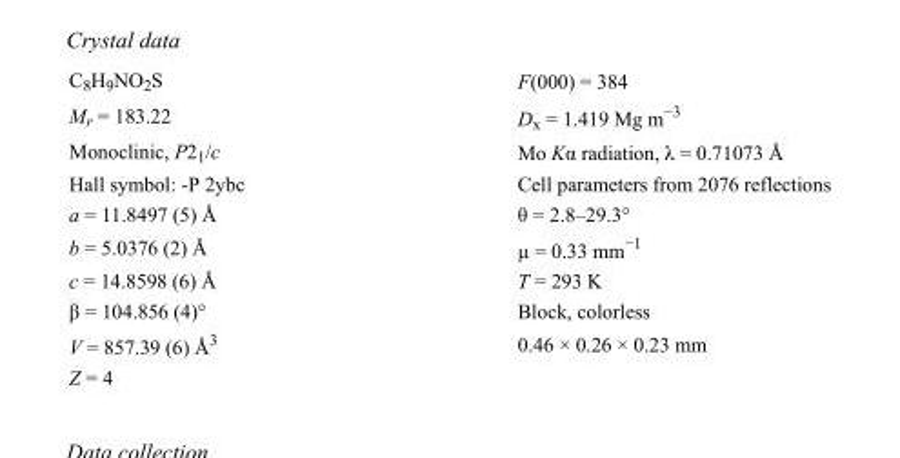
<table><tbody><tr><td>C<sub>8</sub>H<sub>9</sub>NO<sub>2</sub>S</td><td>F(000) = 384</td></tr><tr><td>M<sub>r</sub> = 183.22</td><td>D<sub>x</sub> = 1.419 Mg m<sup>−3</sup></td></tr><tr><td>Monoclinic, P2<sub>1</sub>/c</td><td>Mo Kα radiation, λ = 0.71073 Å</td></tr><tr><td>Hall symbol: -P 2ybc</td><td>Cell parameters from 2076 reflections</td></tr><tr><td>a = 11.8497 (5) Å</td><td>θ = 2.8–29.3°</td></tr><tr><td>b = 5.0376 (2) Å</td><td>µ = 0.33 mm<sup>−1</sup></td></tr><tr><td>c = 14.8598 (6) Å</td><td>T = 293 K</td></tr><tr><td>β = 104.856 (4)°</td><td>Block, colorless</td></tr><tr><td>V = 857.39 (6) Å<sup>3</sup></td><td>0.46 × 0.26 × 0.23 mm</td></tr><tr><td>Z = 4</td><td></td></tr></tbody></table>